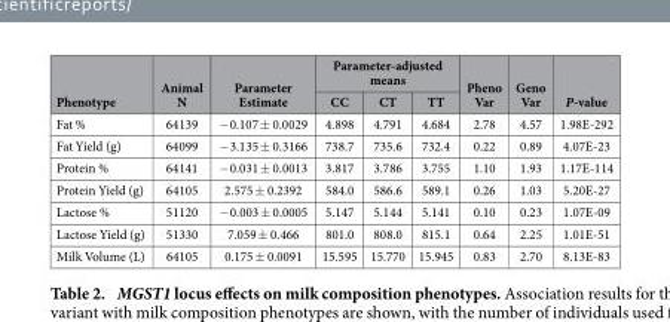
<table><thead><tr><td rowspan="2">Phenotype</td><td rowspan="2">Animal N</td><td rowspan="2">Parameter Estimate</td><td colspan="3">Parameter-adjusted means</td><td rowspan="2">Pheno Var</td><td rowspan="2">Geno Var</td><td rowspan="2">P-value</td></tr><tr><td>CC</td><td>CT</td><td>TT</td></tr></thead><tbody><tr><td>Fat %</td><td>64139</td><td>− 0.107 ± 0.0029</td><td>4.898</td><td>4.791</td><td>4.684</td><td>2.78</td><td>4.57</td><td>1.98E-292</td></tr><tr><td>Fat Yield (g)</td><td>64099</td><td>− 3.135 ± 0.3166</td><td>738.7</td><td>735.6</td><td>732.4</td><td>0.22</td><td>0.89</td><td>4.07E-23</td></tr><tr><td>Protein %</td><td>64141</td><td>− 0.031 ± 0.0013</td><td>3.817</td><td>3.786</td><td>3.755</td><td>1.10</td><td>1.93</td><td>1.17E-114</td></tr><tr><td>Protein Yield (g)</td><td>64105</td><td>2.575 ± 0.2392</td><td>584.0</td><td>586.6</td><td>589.1</td><td>0.26</td><td>1.03</td><td>5.20E-27</td></tr><tr><td>Lactose %</td><td>51120</td><td>− 0.003 ± 0.0005</td><td>5.147</td><td>5.144</td><td>5.141</td><td>0.10</td><td>0.23</td><td>1.07E-09</td></tr><tr><td>Lactose Yield (g)</td><td>51330</td><td>7.059 ± 0.466</td><td>801.0</td><td>808.0</td><td>815.1</td><td>0.64</td><td>2.25</td><td>1.01E-51</td></tr><tr><td>Milk Volume (L)</td><td>64105</td><td>0.175 ± 0.0091</td><td>15.595</td><td>15.770</td><td>15.945</td><td>0.83</td><td>2.70</td><td>8.13E-83</td></tr></tbody></table>